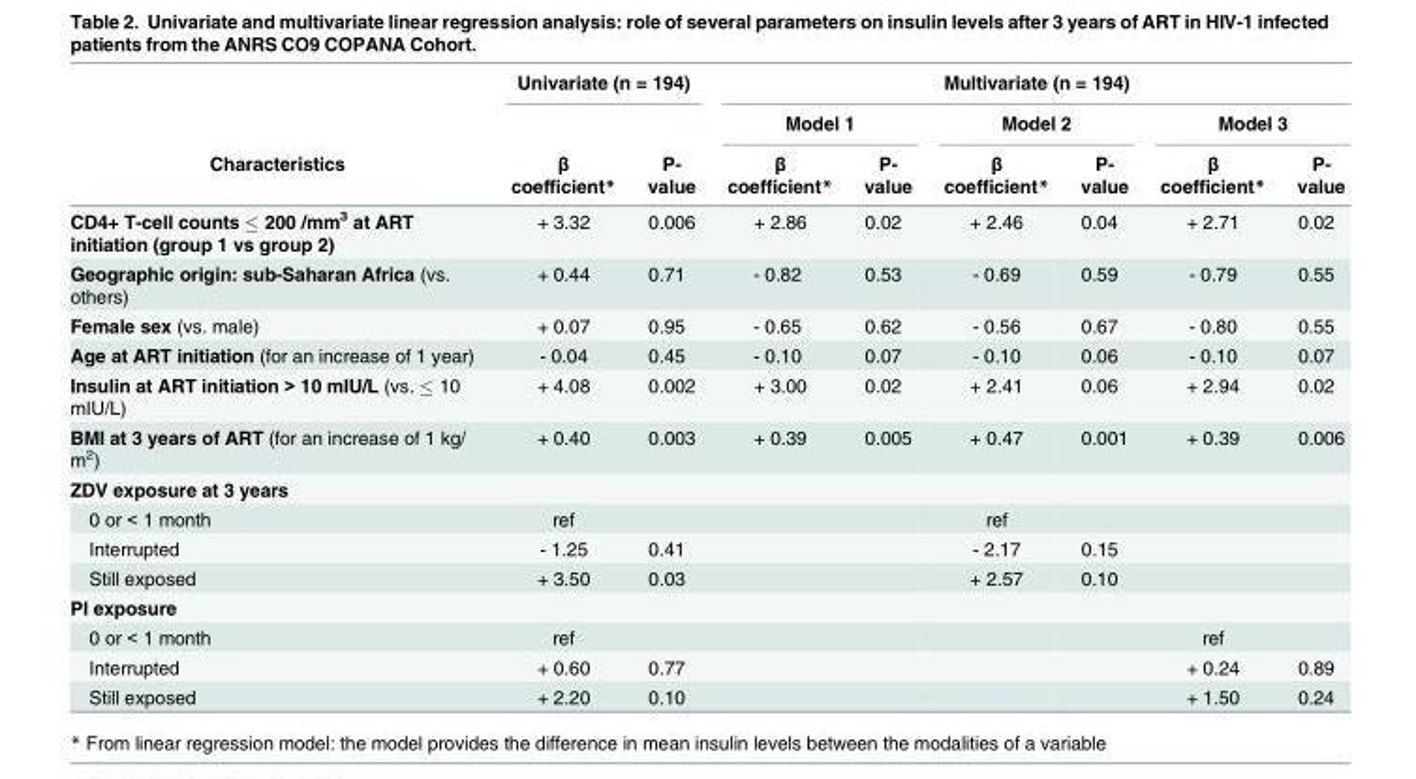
<table><thead><tr><td rowspan="3">Characteristics</td><td colspan="2">Univariate (n = 194)</td><td colspan="6">Multivariate (n = 194)</td></tr><tr><td rowspan="2">β coefficient*</td><td rowspan="2">P- value</td><td colspan="2">Model 1</td><td colspan="2">Model 2</td><td colspan="2">Model 3</td></tr><tr><td>β coefficient*</td><td>P- value</td><td>β coefficient*</td><td>P- value</td><td>β coefficient*</td><td>P- value</td></tr></thead><tbody><tr><td>CD4+ T-cell counts ≤ 200 /mm<sup>3</sup> at ART initiation (group 1 vs group 2)</td><td>+ 3.32</td><td>0.006</td><td>+ 2.86</td><td>0.02</td><td>+ 2.46</td><td>0.04</td><td>+ 2.71</td><td>0.02</td></tr><tr><td>Geographic origin: sub-Saharan Africa (vs. others)</td><td>+ 0.44</td><td>0.71</td><td>- 0.82</td><td>0.53</td><td>- 0.69</td><td>0.59</td><td>- 0.79</td><td>0.55</td></tr><tr><td>Female sex (vs. male)</td><td>+ 0.07</td><td>0.95</td><td>- 0.65</td><td>0.62</td><td>- 0.56</td><td>0.67</td><td>- 0.80</td><td>0.55</td></tr><tr><td>Age at ART initiation (for an increase of 1 year)</td><td>- 0.04</td><td>0.45</td><td>- 0.10</td><td>0.07</td><td>- 0.10</td><td>0.06</td><td>- 0.10</td><td>0.07</td></tr><tr><td>Insulin at ART initiation &gt; 10 mIU/L (vs. ≤ 10 mIU/L)</td><td>+ 4.08</td><td>0.002</td><td>+ 3.00</td><td>0.02</td><td>+ 2.41</td><td>0.06</td><td>+ 2.94</td><td>0.02</td></tr><tr><td>BMI at 3 years of ART (for an increase of 1 kg/ m<sup>2</sup>)</td><td>+ 0.40</td><td>0.003</td><td>+ 0.39</td><td>0.005</td><td>+ 0.47</td><td>0.001</td><td>+ 0.39</td><td>0.006</td></tr><tr><td colspan="9">ZDV exposure at 3 years</td></tr><tr><td>0 or &lt; 1 month</td><td>ref</td><td></td><td></td><td></td><td>ref</td><td></td><td></td><td></td></tr><tr><td>Interrupted</td><td>- 1.25</td><td>0.41</td><td></td><td></td><td>- 2.17</td><td>0.15</td><td></td><td></td></tr><tr><td>Still exposed</td><td>+ 3.50</td><td>0.03</td><td></td><td></td><td>+ 2.57</td><td>0.10</td><td></td><td></td></tr><tr><td colspan="9">PI exposure</td></tr><tr><td>0 or &lt; 1 month</td><td>ref</td><td></td><td></td><td></td><td></td><td></td><td>ref</td><td></td></tr><tr><td>Interrupted</td><td>+ 0.60</td><td>0.77</td><td></td><td></td><td></td><td></td><td>+ 0.24</td><td>0.89</td></tr><tr><td>Still exposed</td><td>+ 2.20</td><td>0.10</td><td></td><td></td><td></td><td></td><td>+ 1.50</td><td>0.24</td></tr></tbody></table>